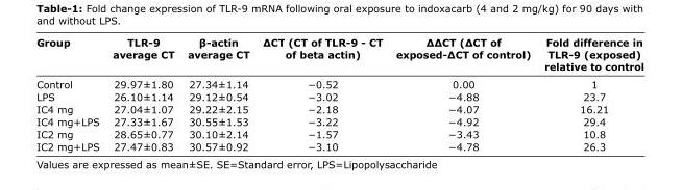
<table><thead><tr><td>Group</td><td>TLR-9 average CT</td><td>β-actin average CT</td><td>∆CT (CT of TLR-9 - CT of beta actin)</td><td>∆∆CT (∆CT of exposed-∆CT of control)</td><td>Fold difference in TLR-9 (exposed) relative to control</td></tr></thead><tbody><tr><td>Control</td><td>29.97±1.80</td><td>27.34±1.14</td><td>−0.52</td><td>0.00</td><td>1</td></tr><tr><td>LPS</td><td>26.10±1.14</td><td>29.12±0.54</td><td>−3.02</td><td>−4.88</td><td>23.7</td></tr><tr><td>IC4 mg</td><td>27.04±1.07</td><td>29.22±2.15</td><td>−2.18</td><td>−4.07</td><td>16.21</td></tr><tr><td>IC4 mg+LPS</td><td>27.33±1.67</td><td>30.55±1.53</td><td>−3.22</td><td>−4.92</td><td>29.4</td></tr><tr><td>IC2 mg</td><td>28.65±0.77</td><td>30.10±2.14</td><td>−1.57</td><td>−3.43</td><td>10.8</td></tr><tr><td>IC2 mg+LPS</td><td>27.47±0.83</td><td>30.57±0.92</td><td>−3.10</td><td>−4.78</td><td>26.3</td></tr></tbody></table>